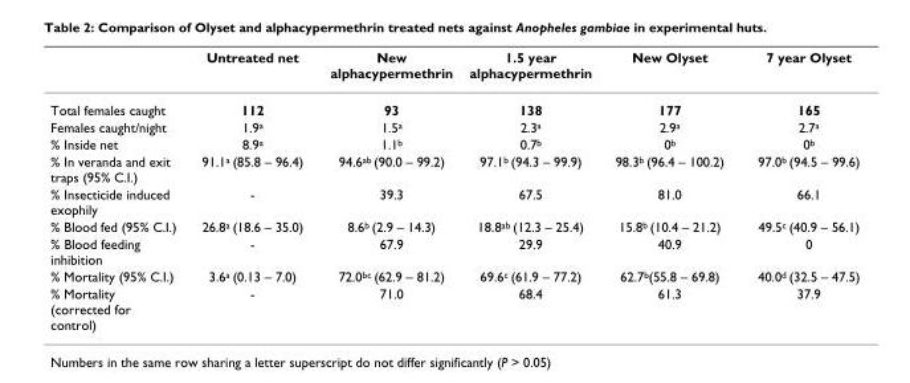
<table><thead><tr><td></td><td>Untreated net</td><td>New alphacypermethrin</td><td>1.5 year alphacypermethrin</td><td>New Olyset</td><td>7 year Olyset</td></tr></thead><tbody><tr><td>Total females caught</td><td>112</td><td>93</td><td>138</td><td>177</td><td>165</td></tr><tr><td>Females caught/night</td><td>1.9<sup>a</sup></td><td>1.5<sup>a</sup></td><td>2.3<sup>a</sup></td><td>2.9<sup>a</sup></td><td>2.7<sup>a</sup></td></tr><tr><td>% Inside net</td><td>8.9<sup>a</sup></td><td>1.1<sup>b</sup></td><td>0.7<sup>b</sup></td><td>0<sup>b</sup></td><td>0<sup>b</sup></td></tr><tr><td>% In veranda and exit traps (95% C.I.)</td><td>91.1<sup>a</sup> (85.8 – 96.4)</td><td>94.6<sup>ab</sup> (90.0 – 99.2)</td><td>97.1<sup>b</sup> (94.3 – 99.9)</td><td>98.3<sup>b</sup> (96.4 – 100.2)</td><td>97.0<sup>b</sup> (94.5 – 99.6)</td></tr><tr><td>% Insecticide induced exophily</td><td>-</td><td>39.3</td><td>67.5</td><td>81.0</td><td>66.1</td></tr><tr><td>% Blood fed (95% C.I.)</td><td>26.8<sup>a</sup> (18.6 – 35.0)</td><td>8.6<sup>b</sup> (2.9 – 14.3)</td><td>18.8<sup>ab</sup> (12.3 – 25.4)</td><td>15.8<sup>b</sup> (10.4 – 21.2)</td><td>49.5<sup>c</sup> (40.9 – 56.1)</td></tr><tr><td>% Blood feeding inhibition</td><td>-</td><td>67.9</td><td>29.9</td><td>40.9</td><td>0</td></tr><tr><td>% Mortality (95% C.I.)</td><td>3.6<sup>a</sup> (0.13 – 7.0)</td><td>72.0<sup>bc</sup> (62.9 – 81.2)</td><td>69.6<sup>c</sup> (61.9 – 77.2)</td><td>62.7<sup>b</sup>(55.8 – 69.8)</td><td>40.0<sup>d</sup> (32.5 – 47.5)</td></tr><tr><td>% Mortality (corrected for control)</td><td>-</td><td>71.0</td><td>68.4</td><td>61.3</td><td>37.9</td></tr></tbody></table>